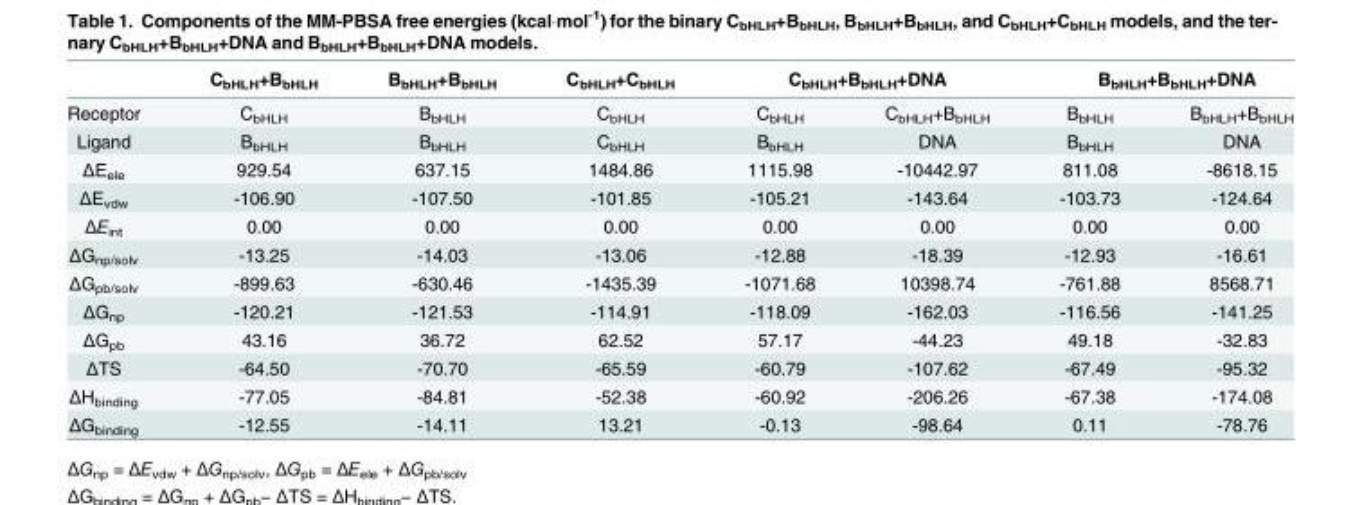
<table><thead><tr><td rowspan="2">Receptor</td><td rowspan="2">C<sub>bHLH</sub>+B<sub>bHLH</sub> C<sub>bHLH</sub></td><td rowspan="2">B<sub>bHLH</sub>+B<sub>bHLH</sub> B<sub>bHLH</sub></td><td rowspan="2">C<sub>bHLH</sub>+C<sub>bHLH</sub> C<sub>bHLH</sub></td><td colspan="2">C<sub>bHLH</sub>+B<sub>bHLH</sub>+DNA</td><td colspan="2">B<sub>bHLH</sub>+B<sub>bHLH</sub>+DNA</td></tr><tr><td>C<sub>bHLH</sub></td><td>C<sub>bHLH</sub>+B<sub>bHLH</sub></td><td>B<sub>bHLH</sub></td><td>B<sub>bHLH</sub>+B<sub>bHLH</sub></td></tr></thead><tbody><tr><td>Ligand</td><td>B<sub>bHLH</sub></td><td>B<sub>bHLH</sub></td><td>C<sub>bHLH</sub></td><td>B<sub>bHLH</sub></td><td>DNA</td><td>B<sub>bHLH</sub></td><td>DNA</td></tr><tr><td>ΔE<sub>ele</sub></td><td>929.54</td><td>637.15</td><td>1484.86</td><td>1115.98</td><td>-10442.97</td><td>811.08</td><td>-8618.15</td></tr><tr><td>ΔE<sub>vdw</sub></td><td>-106.90</td><td>-107.50</td><td>-101.85</td><td>-105.21</td><td>-143.64</td><td>-103.73</td><td>-124.64</td></tr><tr><td>ΔE<sub>int</sub></td><td>0.00</td><td>0.00</td><td>0.00</td><td>0.00</td><td>0.00</td><td>0.00</td><td>0.00</td></tr><tr><td>ΔG<sub>np/solv</sub></td><td>-13.25</td><td>-14.03</td><td>-13.06</td><td>-12.88</td><td>-18.39</td><td>-12.93</td><td>-16.61</td></tr><tr><td>ΔG<sub>pb/solv</sub></td><td>-899.63</td><td>-630.46</td><td>-1435.39</td><td>-1071.68</td><td>10398.74</td><td>-761.88</td><td>8568.71</td></tr><tr><td>ΔG<sub>np</sub></td><td>-120.21</td><td>-121.53</td><td>-114.91</td><td>-118.09</td><td>-162.03</td><td>-116.56</td><td>-141.25</td></tr><tr><td>ΔG<sub>pb</sub></td><td>43.16</td><td>36.72</td><td>62.52</td><td>57.17</td><td>-44.23</td><td>49.18</td><td>-32.83</td></tr><tr><td>ΔTS</td><td>-64.50</td><td>-70.70</td><td>-65.59</td><td>-60.79</td><td>-107.62</td><td>-67.49</td><td>-95.32</td></tr><tr><td>ΔH<sub>binding</sub></td><td>-77.05</td><td>-84.81</td><td>-52.38</td><td>-60.92</td><td>-206.26</td><td>-67.38</td><td>-174.08</td></tr><tr><td>ΔG<sub>binding</sub></td><td>-12.55</td><td>-14.11</td><td>13.21</td><td>-0.13</td><td>-98.64</td><td>0.11</td><td>-78.76</td></tr></tbody></table>